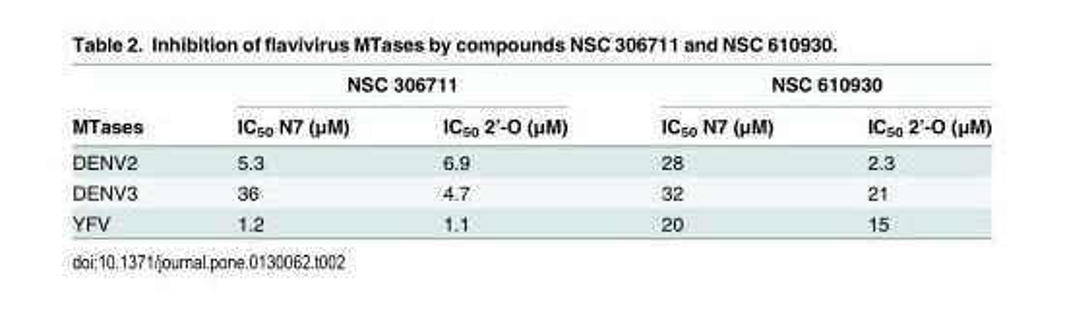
<table><thead><tr><td rowspan="2">MTases</td><td colspan="2">NSC 306711</td><td colspan="2">NSC 610930</td></tr><tr><td>IC<sub>50</sub> N7 (μM)</td><td>IC<sub>50</sub> 2’-O (μM)</td><td>IC<sub>50</sub> N7 (μM)</td><td>IC<sub>50</sub> 2’-O (μM)</td></tr></thead><tbody><tr><td>DENV2</td><td>5.3</td><td>6.9</td><td>28</td><td>2.3</td></tr><tr><td>DENV3</td><td>36</td><td>4.7</td><td>32</td><td>21</td></tr><tr><td>YFV</td><td>1.2</td><td>1.1</td><td>20</td><td>15</td></tr></tbody></table>